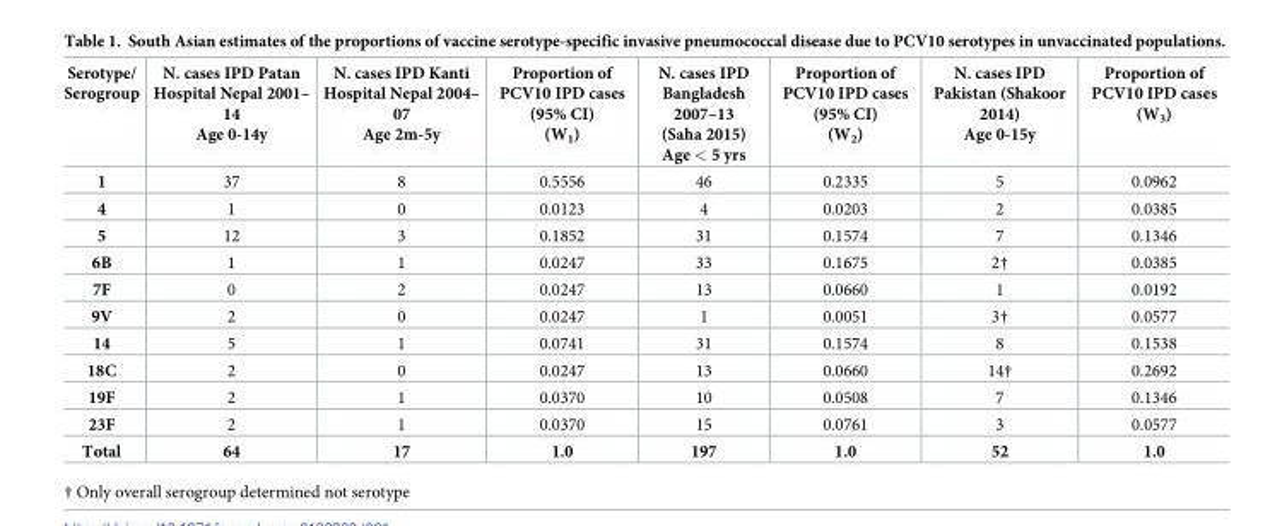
<table><thead><tr><td>Serotype/ Serogroup</td><td>N. cases IPD Patan Hospital Nepal 2001– 14 Age 0-14y</td><td>N. cases IPD Kanti Hospital Nepal 2004– 07 Age 2m-5y</td><td>Proportion of PCV10 IPD cases (95% CI) (W<sub>1</sub>)</td><td>N. cases IPD Bangladesh 2007–13 (Saha 2015) Age &lt; 5 yrs</td><td>Proportion of PCV10 IPD cases (95% CI) (W<sub>2</sub>)</td><td>N. cases IPD Pakistan (Shakoor 2014) Age 0-15y</td><td>Proportion of PCV10 IPD cases (W<sub>3</sub>)</td></tr></thead><tbody><tr><td>1</td><td>37</td><td>8</td><td>0.5556</td><td>46</td><td>0.2335</td><td>5</td><td>0.0962</td></tr><tr><td>4</td><td>1</td><td>0</td><td>0.0123</td><td>4</td><td>0.0203</td><td>2</td><td>0.0385</td></tr><tr><td>5</td><td>12</td><td>3</td><td>0.1852</td><td>31</td><td>0.1574</td><td>7</td><td>0.1346</td></tr><tr><td>6B</td><td>1</td><td>1</td><td>0.0247</td><td>33</td><td>0.1675</td><td>2†</td><td>0.0385</td></tr><tr><td>7F</td><td>0</td><td>2</td><td>0.0247</td><td>13</td><td>0.0660</td><td>1</td><td>0.0192</td></tr><tr><td>9V</td><td>2</td><td>0</td><td>0.0247</td><td>1</td><td>0.0051</td><td>3†</td><td>0.0577</td></tr><tr><td>14</td><td>5</td><td>1</td><td>0.0741</td><td>31</td><td>0.1574</td><td>8</td><td>0.1538</td></tr><tr><td>18C</td><td>2</td><td>0</td><td>0.0247</td><td>13</td><td>0.0660</td><td>14†</td><td>0.2692</td></tr><tr><td>19F</td><td>2</td><td>1</td><td>0.0370</td><td>10</td><td>0.0508</td><td>7</td><td>0.1346</td></tr><tr><td>23F</td><td>2</td><td>1</td><td>0.0370</td><td>15</td><td>0.0761</td><td>3</td><td>0.0577</td></tr><tr><td>Total</td><td>64</td><td>17</td><td>1.0</td><td>197</td><td>1.0</td><td>52</td><td>1.0</td></tr></tbody></table>